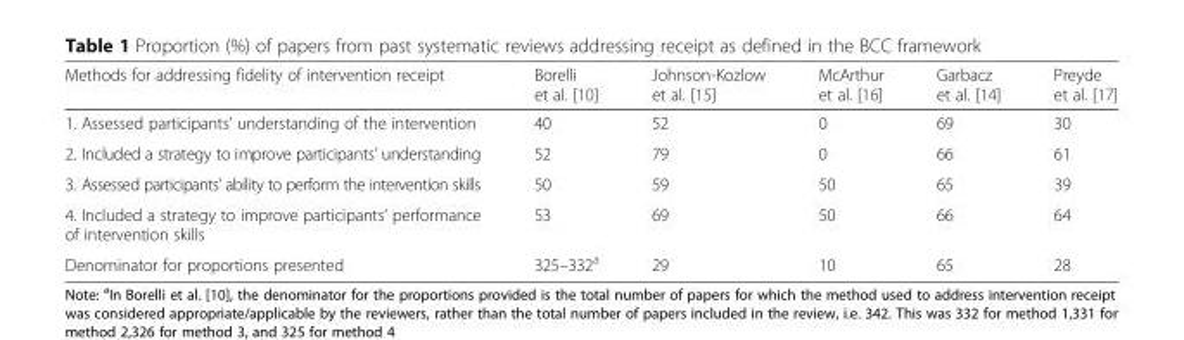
<table><thead><tr><td>Methods for addressing fidelity of intervention receipt</td><td>Borelli et al. [10]</td><td>Johnson-Kozlow et al. [15]</td><td>McArthur et al. [16]</td><td>Garbacz et al. [14]</td><td>Preyde et al. [17]</td></tr></thead><tbody><tr><td>1. Assessed participants’ understanding of the intervention</td><td>40</td><td>52</td><td>0</td><td>69</td><td>30</td></tr><tr><td>2. Included a strategy to improve participants’ understanding</td><td>52</td><td>79</td><td>0</td><td>66</td><td>61</td></tr><tr><td>3. Assessed participants’ ability to perform the intervention skills</td><td>50</td><td>59</td><td>50</td><td>65</td><td>39</td></tr><tr><td>4. Included a strategy to improve participants’ performance of intervention skills</td><td>53</td><td>69</td><td>50</td><td>66</td><td>64</td></tr><tr><td>Denominator for proportions presented</td><td>325–332<sup>a</sup></td><td>29</td><td>10</td><td>65</td><td>28</td></tr></tbody></table>